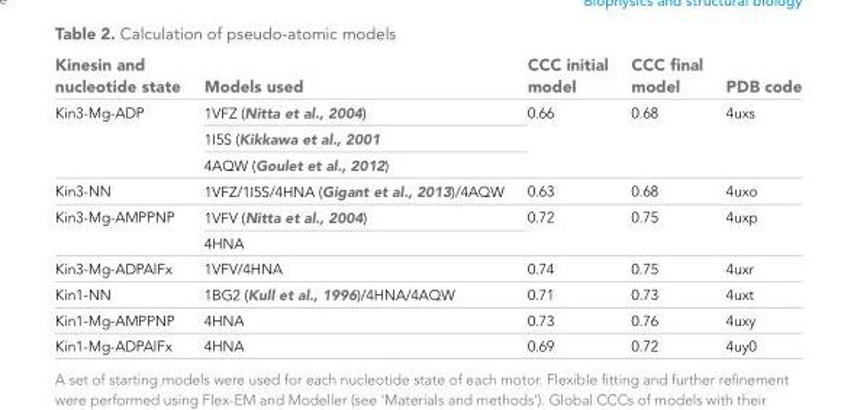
<table><thead><tr><td>Kinesin and nucleotide state</td><td>Models used</td><td>CCC initial model</td><td>CCC final model</td><td>PDB code</td></tr></thead><tbody><tr><td rowspan="3">Kin3-Mg-ADP</td><td>1VFZ (Nitta et al., 2004)</td><td rowspan="3">0.66</td><td rowspan="3">0.68</td><td rowspan="3">4uxs</td></tr><tr><td>1I5S (Kikkawa et al., 2001</td></tr><tr><td>4AQW (Goulet et al., 2012)</td></tr><tr><td>Kin3-NN</td><td>1VFZ/1I5S/4HNA (Gigant et al., 2013)/4AQW</td><td>0.63</td><td>0.68</td><td>4uxo</td></tr><tr><td rowspan="2">Kin3-Mg-AMPPNP</td><td>1VFV (Nitta et al., 2004)</td><td rowspan="2">0.72</td><td rowspan="2">0.75</td><td rowspan="2">4uxp</td></tr><tr><td>4HNA</td></tr><tr><td>Kin3-Mg-ADPAlFx</td><td>1VFV/4HNA</td><td>0.74</td><td>0.75</td><td>4uxr</td></tr><tr><td>Kin1-NN</td><td>1BG2 (Kull et al., 1996)/4HNA/4AQW</td><td>0.71</td><td>0.73</td><td>4uxt</td></tr><tr><td>Kin1-Mg-AMPPNP</td><td>4HNA</td><td>0.73</td><td>0.76</td><td>4uxy</td></tr><tr><td>Kin1-Mg-ADPAlFx</td><td>4HNA</td><td>0.69</td><td>0.72</td><td>4uy0</td></tr></tbody></table>